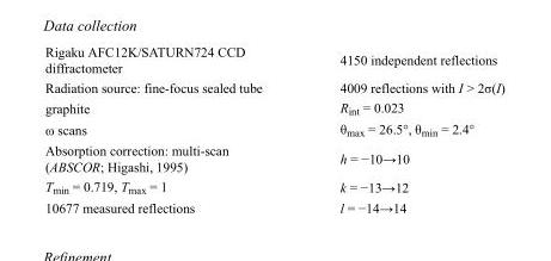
<table><tbody><tr><td>Rigaku AFC12K/SATURN724 CCD diffractometer</td><td>4150 independent reflections</td></tr><tr><td>Radiation source: fine-focus sealed tube</td><td>4009 reflections with I &gt; 2σ(I)</td></tr><tr><td>graphite</td><td>R<sub>int</sub> = 0.023</td></tr><tr><td>ω scans</td><td>θ<sub>max</sub> = 26.5°, θ<sub>min</sub> = 2.4°</td></tr><tr><td>Absorption correction: multi-scan (ABSCOR; Higashi, 1995)</td><td>h = −10→10</td></tr><tr><td>T<sub>min</sub> = 0.719, T<sub>max</sub> = 1</td><td>k = −13→12</td></tr><tr><td>10677 measured reflections</td><td>l = −14→14</td></tr></tbody></table>